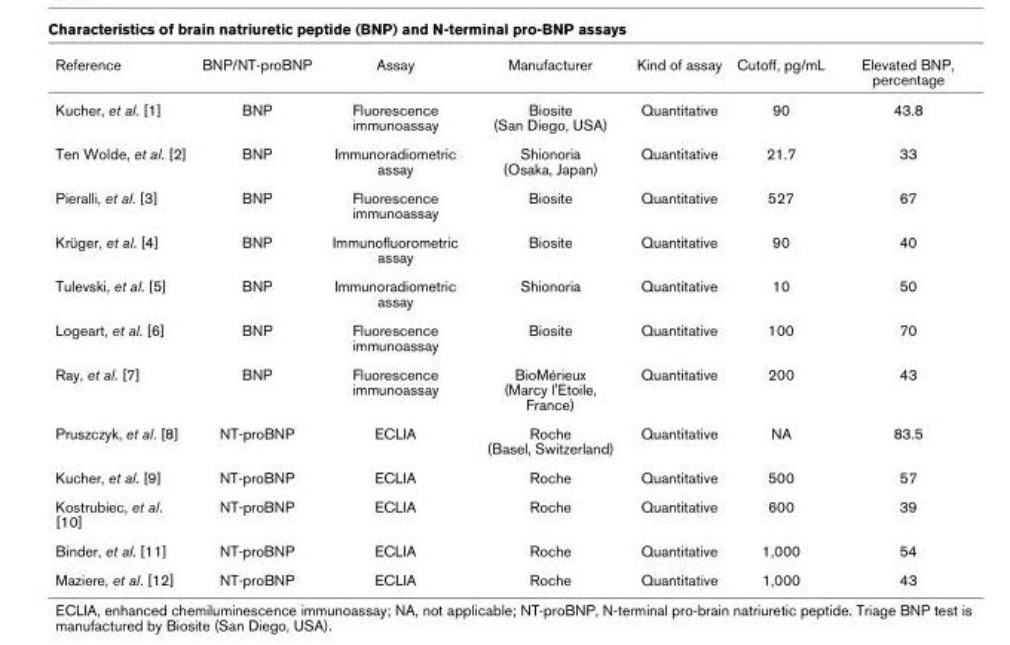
<table><thead><tr><td>Reference</td><td>BNP/NT-proBNP</td><td>Assay</td><td>Manufacturer</td><td>Kind of assay</td><td>Cutoff, pg/mL</td><td>Elevated BNP, percentage</td></tr></thead><tbody><tr><td>Kucher, et al. [1]</td><td>BNP</td><td>Fluorescence immunoassay</td><td>Biosite (San Diego, USA)</td><td>Quantitative</td><td>90</td><td>43.8</td></tr><tr><td>Ten Wolde, et al. [2]</td><td>BNP</td><td>Immunoradiometric assay</td><td>Shionoria (Osaka, Japan)</td><td>Quantitative</td><td>21.7</td><td>33</td></tr><tr><td>Pieralli, et al. [3]</td><td>BNP</td><td>Fluorescence immunoassay</td><td>Biosite</td><td>Quantitative</td><td>527</td><td>67</td></tr><tr><td>Krüger, et al. [4]</td><td>BNP</td><td>Immunofluorometric assay</td><td>Biosite</td><td>Quantitative</td><td>90</td><td>40</td></tr><tr><td>Tulevski, et al. [5]</td><td>BNP</td><td>Immunoradiometric assay</td><td>Shionoria</td><td>Quantitative</td><td>10</td><td>50</td></tr><tr><td>Logeart, et al. [6]</td><td>BNP</td><td>Fluorescence immunoassay</td><td>Biosite</td><td>Quantitative</td><td>100</td><td>70</td></tr><tr><td>Ray, et al. [7]</td><td>BNP</td><td>Fluorescence immunoassay</td><td>BioMérieux (Marcy l&#x27;Etoile, France)</td><td>Quantitative</td><td>200</td><td>43</td></tr><tr><td>Pruszczyk, et al. [8]</td><td>NT-proBNP</td><td>ECLIA</td><td>Roche (Basel, Switzerland)</td><td>Quantitative</td><td>NA</td><td>83.5</td></tr><tr><td>Kucher, et al. [9]</td><td>NT-proBNP</td><td>ECLIA</td><td>Roche</td><td>Quantitative</td><td>500</td><td>57</td></tr><tr><td>Kostrubiec, et al. [10]</td><td>NT-proBNP</td><td>ECLIA</td><td>Roche</td><td>Quantitative</td><td>600</td><td>39</td></tr><tr><td>Binder, et al. [11]</td><td>NT-proBNP</td><td>ECLIA</td><td>Roche</td><td>Quantitative</td><td>1,000</td><td>54</td></tr><tr><td>Maziere, et al. [12]</td><td>NT-proBNP</td><td>ECLIA</td><td>Roche</td><td>Quantitative</td><td>1,000</td><td>43</td></tr></tbody></table>